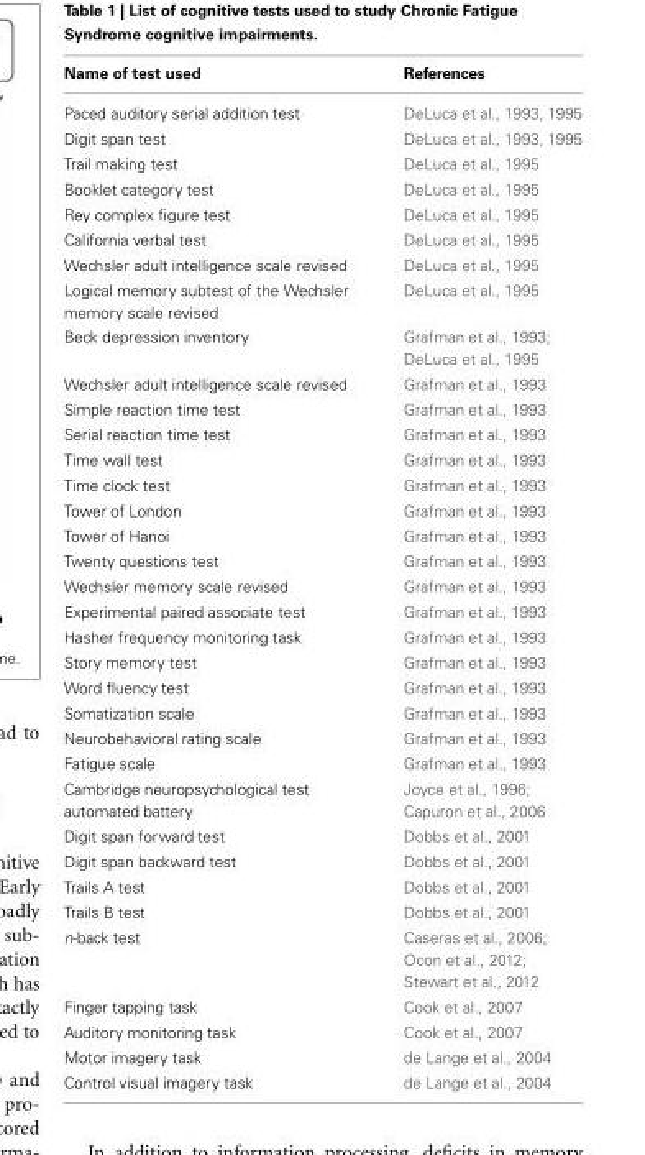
<table><thead><tr><td>Name of test used</td><td>References</td></tr></thead><tbody><tr><td>Paced auditory serial addition test</td><td>DeLuca et al., 1993, 1995</td></tr><tr><td>Digit span test</td><td>DeLuca et al., 1993, 1995</td></tr><tr><td>Trail making test</td><td>DeLuca et al., 1995</td></tr><tr><td>Booklet category test</td><td>DeLuca et al., 1995</td></tr><tr><td>Rey complex figure test</td><td>DeLuca et al., 1995</td></tr><tr><td>California verbal test</td><td>DeLuca et al., 1995</td></tr><tr><td>Wechsler adult intelligence scale revised</td><td>DeLuca et al., 1995</td></tr><tr><td>Logical memory subtest of the Wechsler memory scale revised</td><td>DeLuca et al., 1995</td></tr><tr><td>Beck depression inventory</td><td>Grafman et al., 1993; DeLuca et al., 1995</td></tr><tr><td>Wechsler adult intelligence scale revised</td><td>Grafman et al., 1993</td></tr><tr><td>Simple reaction time test</td><td>Grafman et al., 1993</td></tr><tr><td>Serial reaction time test</td><td>Grafman et al., 1993</td></tr><tr><td>Time wall test</td><td>Grafman et al., 1993</td></tr><tr><td>Time clock test</td><td>Grafman et al., 1993</td></tr><tr><td>Tower of London</td><td>Grafman et al., 1993</td></tr><tr><td>Tower of Hanoi</td><td>Grafman et al., 1993</td></tr><tr><td>Twenty questions test</td><td>Grafman et al., 1993</td></tr><tr><td>Wechsler memory scale revised</td><td>Grafman et al., 1993</td></tr><tr><td>Experimental paired associate test</td><td>Grafman et al., 1993</td></tr><tr><td>Hasher frequency monitoring task</td><td>Grafman et al., 1993</td></tr><tr><td>Story memory test</td><td>Grafman et al., 1993</td></tr><tr><td>Word fluency test</td><td>Grafman et al., 1993</td></tr><tr><td>Somatization scale</td><td>Grafman et al., 1993</td></tr><tr><td>Neurobehavioral rating scale</td><td>Grafman et al., 1993</td></tr><tr><td>Fatigue scale</td><td>Grafman et al., 1993</td></tr><tr><td>Cambridge neuropsychological test automated battery</td><td>Joyce et al., 1996; Capuron et al., 2006</td></tr><tr><td>Digit span forward test</td><td>Dobbs et al., 2001</td></tr><tr><td>Digit span backward test</td><td>Dobbs et al., 2001</td></tr><tr><td>Trails A test</td><td>Dobbs et al., 2001</td></tr><tr><td>Trails B test</td><td>Dobbs et al., 2001</td></tr><tr><td>n-back test</td><td>Caseras et al., 2006; Ocon et al., 2012; Stewart et al., 2012</td></tr><tr><td>Finger tapping task</td><td>Cook et al., 2007</td></tr><tr><td>Auditory monitoring task</td><td>Cook et al., 2007</td></tr><tr><td>Motor imagery task</td><td>de Lange et al., 2004</td></tr><tr><td>Control visual imagery task</td><td>de Lange et al., 2004</td></tr></tbody></table>